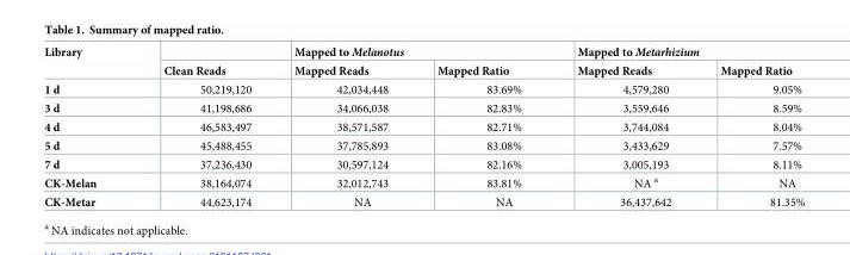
<table><thead><tr><td rowspan="2">Library</td><td rowspan="2">Clean Reads</td><td colspan="2">Mapped to Melanotus</td><td colspan="2">Mapped to Metarhizium</td></tr><tr><td>Mapped Reads</td><td>Mapped Ratio</td><td>Mapped Reads</td><td>Mapped Ratio</td></tr></thead><tbody><tr><td>1 d</td><td>50,219,120</td><td>42,034,448</td><td>83.69%</td><td>4,579,280</td><td>9.05%</td></tr><tr><td>3 d</td><td>41,198,686</td><td>34,066,038</td><td>82.83%</td><td>3,559,646</td><td>8.59%</td></tr><tr><td>4 d</td><td>46,583,497</td><td>38,571,587</td><td>82.71%</td><td>3,744,084</td><td>8.04%</td></tr><tr><td>5 d</td><td>45,488,455</td><td>37,785,893</td><td>83.08%</td><td>3,433,629</td><td>7.57%</td></tr><tr><td>7 d</td><td>37,236,430</td><td>30,597,124</td><td>82.16%</td><td>3,005,193</td><td>8.11%</td></tr><tr><td>CK-Melan</td><td>38,164,074</td><td>32,012,743</td><td>83.81%</td><td>NA <sup>a</sup></td><td>NA</td></tr><tr><td>CK-Metar</td><td>44,623,174</td><td>NA</td><td>NA</td><td>36,437,642</td><td>81.35%</td></tr></tbody></table>